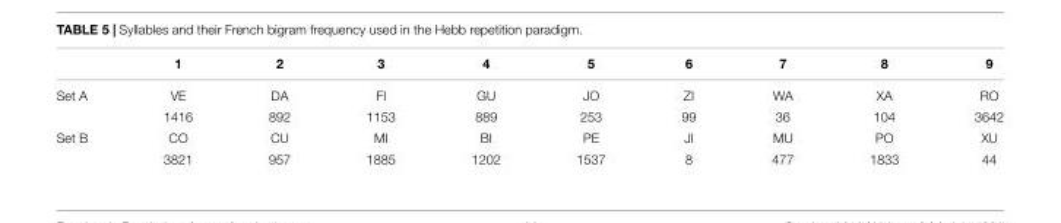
<table><thead><tr><td></td><td>1</td><td>2</td><td>3</td><td>4</td><td>5</td><td>6</td><td>7</td><td>8</td><td>9</td></tr></thead><tbody><tr><td rowspan="2">Set A</td><td>VE</td><td>DA</td><td>FI</td><td>GU</td><td>JO</td><td>ZI</td><td>WA</td><td>XA</td><td>RO</td></tr><tr><td>1416</td><td>892</td><td>1153</td><td>889</td><td>253</td><td>99</td><td>36</td><td>104</td><td>3642</td></tr><tr><td rowspan="2">Set B</td><td>CO</td><td>CU</td><td>MI</td><td>BI</td><td>PE</td><td>JI</td><td>MU</td><td>PO</td><td>XU</td></tr><tr><td>3821</td><td>957</td><td>1885</td><td>1202</td><td>1537</td><td>8</td><td>477</td><td>1833</td><td>44</td></tr></tbody></table>